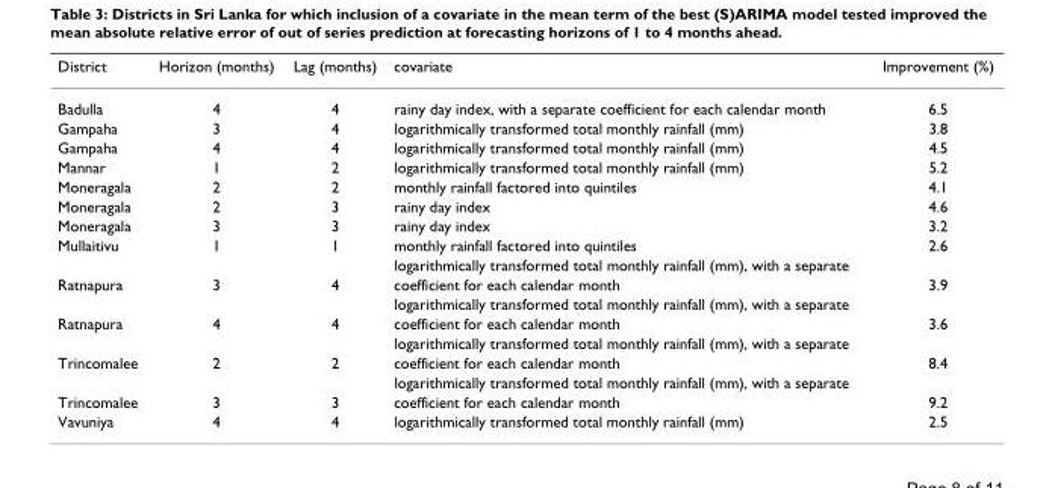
<table><thead><tr><td>District</td><td>Horizon (months)</td><td>Lag (months)</td><td>covariate</td><td>Improvement (%)</td></tr></thead><tbody><tr><td>Badulla</td><td>4</td><td>4</td><td>rainy day index, with a separate coefficient for each calendar month</td><td>6.5</td></tr><tr><td>Gampaha</td><td>3</td><td>4</td><td>logarithmically transformed total monthly rainfall (mm)</td><td>3.8</td></tr><tr><td>Gampaha</td><td>4</td><td>4</td><td>logarithmically transformed total monthly rainfall (mm)</td><td>4.5</td></tr><tr><td>Mannar</td><td>1</td><td>2</td><td>logarithmically transformed total monthly rainfall (mm)</td><td>5.2</td></tr><tr><td>Moneragala</td><td>2</td><td>2</td><td>monthly rainfall factored into quintiles</td><td>4.1</td></tr><tr><td>Moneragala</td><td>2</td><td>3</td><td>rainy day index</td><td>4.6</td></tr><tr><td>Moneragala</td><td>3</td><td>3</td><td>rainy day index</td><td>3.2</td></tr><tr><td rowspan="2">Mullaitivu</td><td>1</td><td>1</td><td>monthly rainfall factored into quintiles</td><td>2.6</td></tr><tr><td></td><td></td><td>logarithmically transformed total monthly rainfall (mm), with a separate</td><td></td></tr><tr><td rowspan="2">Ratnapura</td><td>3</td><td>4</td><td>coefficient for each calendar month</td><td>3.9</td></tr><tr><td></td><td></td><td>logarithmically transformed total monthly rainfall (mm), with a separate</td><td></td></tr><tr><td rowspan="2">Ratnapura</td><td>4</td><td>4</td><td>coefficient for each calendar month</td><td>3.6</td></tr><tr><td></td><td></td><td>logarithmically transformed total monthly rainfall (mm), with a separate</td><td></td></tr><tr><td rowspan="2">Trincomalee</td><td>2</td><td>2</td><td>coefficient for each calendar month</td><td>8.4</td></tr><tr><td></td><td></td><td>logarithmically transformed total monthly rainfall (mm), with a separate</td><td></td></tr><tr><td>Trincomalee</td><td>3</td><td>3</td><td>coefficient for each calendar month</td><td>9.2</td></tr><tr><td>Vavuniya</td><td>4</td><td>4</td><td>logarithmically transformed total monthly rainfall (mm)</td><td>2.5</td></tr></tbody></table>